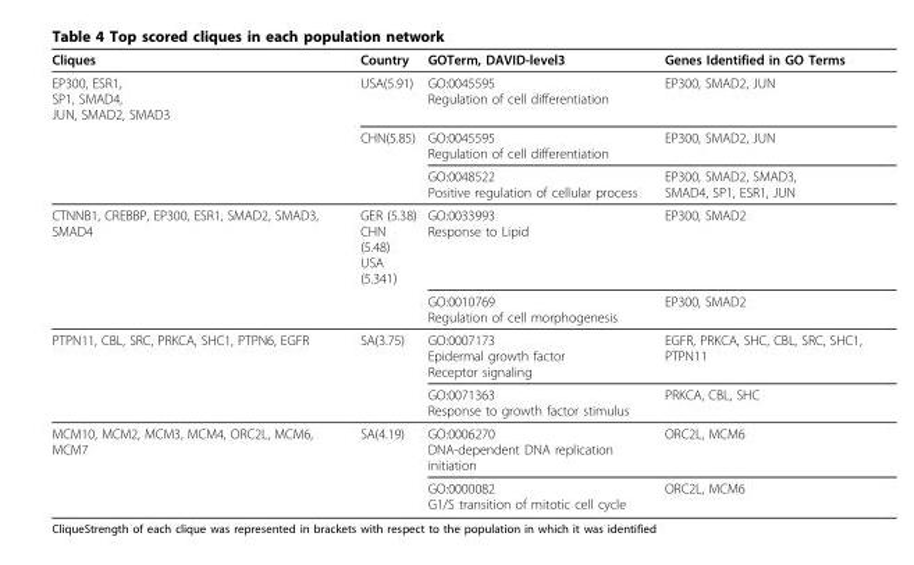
<table><thead><tr><td>Cliques</td><td>Country</td><td>GOTerm, DAVID-level3</td><td>Genes Identified in GO Terms</td></tr></thead><tbody><tr><td rowspan="3">EP300, ESR1, SP1, SMAD4, JUN, SMAD2, SMAD3</td><td>USA(5.91)</td><td>GO:0045595 Regulation of cell differentiation</td><td>EP300, SMAD2, JUN</td></tr><tr><td>CHN(5.85)</td><td>GO:0045595 Regulation of cell differentiation</td><td>EP300, SMAD2, JUN</td></tr><tr><td></td><td>GO:0048522 Positive regulation of cellular process</td><td>EP300, SMAD2, SMAD3, SMAD4, SP1, ESR1, JUN</td></tr><tr><td rowspan="2">CTNNB1, CREBBP, EP300, ESR1, SMAD2, SMAD3, SMAD4</td><td>GER (5.38) CHN (5.48) USA (5.341)</td><td>GO:0033993 Response to Lipid</td><td>EP300, SMAD2</td></tr><tr><td></td><td>GO:0010769 Regulation of cell morphogenesis</td><td>EP300, SMAD2</td></tr><tr><td rowspan="2">PTPN11, CBL, SRC, PRKCA, SHC1, PTPN6, EGFR</td><td>SA(3.75)</td><td>GO:0007173 Epidermal growth factor Receptor signaling</td><td>EGFR, PRKCA, SHC, CBL, SRC, SHC1, PTPN11</td></tr><tr><td></td><td>GO:0071363 Response to growth factor stimulus</td><td>PRKCA, CBL, SHC</td></tr><tr><td rowspan="2">MCM10, MCM2, MCM3, MCM4, ORC2L, MCM6, MCM7</td><td>SA(4.19)</td><td>GO:0006270 DNA-dependent DNA replication initiation</td><td>ORC2L, MCM6</td></tr><tr><td></td><td>GO:0000082 G1/S transition of mitotic cell cycle</td><td>ORC2L, MCM6</td></tr></tbody></table>